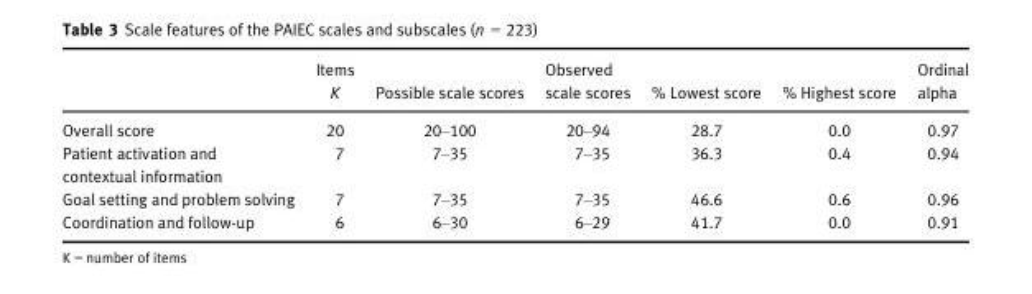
<table><thead><tr><td></td><td>Items K</td><td>Possible scale scores</td><td>Observed scale scores</td><td>% Lowest score</td><td>% Highest score</td><td>Ordinal alpha</td></tr></thead><tbody><tr><td>Overall score</td><td>20</td><td>20–100</td><td>20–94</td><td>28.7</td><td>0.0</td><td>0.97</td></tr><tr><td>Patient activation and contextual information</td><td>7</td><td>7–35</td><td>7–35</td><td>36.3</td><td>0.4</td><td>0.94</td></tr><tr><td>Goal setting and problem solving</td><td>7</td><td>7–35</td><td>7–35</td><td>46.6</td><td>0.6</td><td>0.96</td></tr><tr><td>Coordination and follow-up</td><td>6</td><td>6–30</td><td>6–29</td><td>41.7</td><td>0.0</td><td>0.91</td></tr></tbody></table>